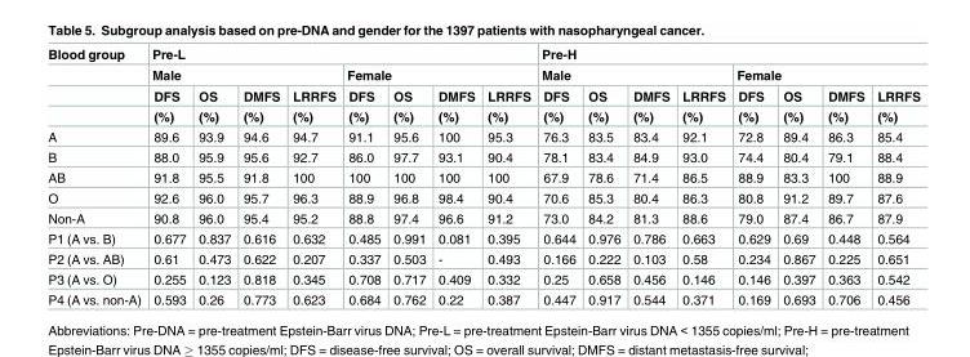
<table><thead><tr><td rowspan="3">Blood group</td><td colspan="8">Pre-L</td><td colspan="8">Pre-H</td></tr><tr><td colspan="4">Male</td><td colspan="4">Female</td><td colspan="4">Male</td><td colspan="4">Female</td></tr><tr><td>DFS</td><td>OS</td><td>DMFS</td><td>LRRFS</td><td>DFS</td><td>OS</td><td>DMFS</td><td>LRRFS</td><td>DFS</td><td>OS</td><td>DMFS</td><td>LRRFS</td><td>DFS</td><td>OS</td><td>DMFS</td><td>LRRFS</td></tr></thead><tbody><tr><td></td><td>(%)</td><td>(%)</td><td>(%)</td><td>(%)</td><td>(%)</td><td>(%)</td><td>(%)</td><td>(%)</td><td>(%)</td><td>(%)</td><td>(%)</td><td>(%)</td><td>(%)</td><td>(%)</td><td>(%)</td><td>(%)</td></tr><tr><td>A</td><td>89.6</td><td>93.9</td><td>94.6</td><td>94.7</td><td>91.1</td><td>95.6</td><td>100</td><td>95.3</td><td>76.3</td><td>83.5</td><td>83.4</td><td>92.1</td><td>72.8</td><td>89.4</td><td>86.3</td><td>85.4</td></tr><tr><td>B</td><td>88.0</td><td>95.9</td><td>95.6</td><td>92.7</td><td>86.0</td><td>97.7</td><td>93.1</td><td>90.4</td><td>78.1</td><td>83.4</td><td>84.9</td><td>93.0</td><td>74.4</td><td>80.4</td><td>79.1</td><td>88.4</td></tr><tr><td>AB</td><td>91.8</td><td>95.5</td><td>91.8</td><td>100</td><td>100</td><td>100</td><td>100</td><td>100</td><td>67.9</td><td>78.6</td><td>71.4</td><td>86.5</td><td>88.9</td><td>83.3</td><td>100</td><td>88.9</td></tr><tr><td>O</td><td>92.6</td><td>96.0</td><td>95.7</td><td>96.3</td><td>88.9</td><td>96.8</td><td>98.4</td><td>90.4</td><td>70.6</td><td>85.3</td><td>80.4</td><td>86.3</td><td>80.8</td><td>91.2</td><td>89.7</td><td>87.6</td></tr><tr><td>Non-A</td><td>90.8</td><td>96.0</td><td>95.4</td><td>95.2</td><td>88.8</td><td>97.4</td><td>96.6</td><td>91.2</td><td>73.0</td><td>84.2</td><td>81.3</td><td>88.6</td><td>79.0</td><td>87.4</td><td>86.7</td><td>87.9</td></tr><tr><td>P1 (A vs. B)</td><td>0.677</td><td>0.837</td><td>0.616</td><td>0.632</td><td>0.485</td><td>0.991</td><td>0.081</td><td>0.395</td><td>0.644</td><td>0.976</td><td>0.786</td><td>0.663</td><td>0.629</td><td>0.69</td><td>0.448</td><td>0.564</td></tr><tr><td>P2 (A vs. AB)</td><td>0.61</td><td>0.473</td><td>0.622</td><td>0.207</td><td>0.337</td><td>0.503</td><td>-</td><td>0.493</td><td>0.166</td><td>0.222</td><td>0.103</td><td>0.58</td><td>0.234</td><td>0.867</td><td>0.225</td><td>0.651</td></tr><tr><td>P3 (A vs. O)</td><td>0.255</td><td>0.123</td><td>0.818</td><td>0.345</td><td>0.708</td><td>0.717</td><td>0.409</td><td>0.332</td><td>0.25</td><td>0.658</td><td>0.456</td><td>0.146</td><td>0.146</td><td>0.397</td><td>0.363</td><td>0.542</td></tr><tr><td>P4 (A vs. non-A)</td><td>0.593</td><td>0.26</td><td>0.773</td><td>0.623</td><td>0.684</td><td>0.762</td><td>0.22</td><td>0.387</td><td>0.447</td><td>0.917</td><td>0.544</td><td>0.371</td><td>0.169</td><td>0.693</td><td>0.706</td><td>0.456</td></tr></tbody></table>